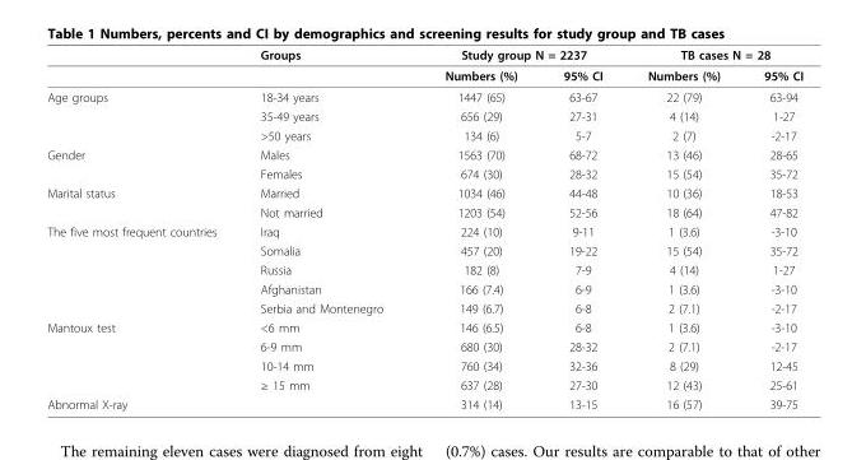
<table><thead><tr><td rowspan="2"></td><td rowspan="2">Groups</td><td colspan="2">Study group N = 2237</td><td colspan="2">TB cases N = 28</td></tr><tr><td>Numbers (%)</td><td>95% CI</td><td>Numbers (%)</td><td>95% CI</td></tr></thead><tbody><tr><td rowspan="3">Age groups</td><td>18-34 years</td><td>1447 (65)</td><td>63-67</td><td>22 (79)</td><td>63-94</td></tr><tr><td>35-49 years</td><td>656 (29)</td><td>27-31</td><td>4 (14)</td><td>1-27</td></tr><tr><td>&gt;50 years</td><td>134 (6)</td><td>5-7</td><td>2 (7)</td><td>-2-17</td></tr><tr><td rowspan="2">Gender</td><td>Males</td><td>1563 (70)</td><td>68-72</td><td>13 (46)</td><td>28-65</td></tr><tr><td>Females</td><td>674 (30)</td><td>28-32</td><td>15 (54)</td><td>35-72</td></tr><tr><td rowspan="2">Marital status</td><td>Married</td><td>1034 (46)</td><td>44-48</td><td>10 (36)</td><td>18-53</td></tr><tr><td>Not married</td><td>1203 (54)</td><td>52-56</td><td>18 (64)</td><td>47-82</td></tr><tr><td rowspan="5">The five most frequent countries</td><td>Iraq</td><td>224 (10)</td><td>9-11</td><td>1 (3.6)</td><td>-3-10</td></tr><tr><td>Somalia</td><td>457 (20)</td><td>19-22</td><td>15 (54)</td><td>35-72</td></tr><tr><td>Russia</td><td>182 (8)</td><td>7-9</td><td>4 (14)</td><td>1-27</td></tr><tr><td>Afghanistan</td><td>166 (7.4)</td><td>6-9</td><td>1 (3.6)</td><td>-3-10</td></tr><tr><td>Serbia and Montenegro</td><td>149 (6.7)</td><td>6-8</td><td>2 (7.1)</td><td>-2-17</td></tr><tr><td rowspan="4">Mantoux test</td><td>&lt;6 mm</td><td>146 (6.5)</td><td>6-8</td><td>1 (3.6)</td><td>-3-10</td></tr><tr><td>6-9 mm</td><td>680 (30)</td><td>28-32</td><td>2 (7.1)</td><td>-2-17</td></tr><tr><td>10-14 mm</td><td>760 (34)</td><td>32-36</td><td>8 (29)</td><td>12-45</td></tr><tr><td>≥ 15 mm</td><td>637 (28)</td><td>27-30</td><td>12 (43)</td><td>25-61</td></tr><tr><td>Abnormal X-ray</td><td></td><td>314 (14)</td><td>13-15</td><td>16 (57)</td><td>39-75</td></tr></tbody></table>